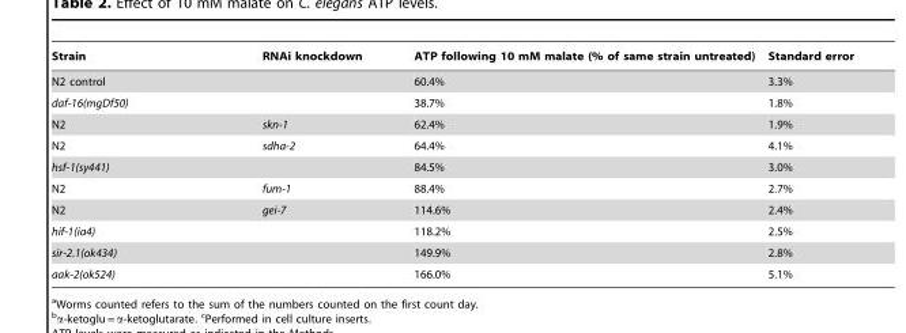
<table><thead><tr><td>Strain</td><td>RNAi knockdown</td><td>ATP following 10 mM malate (% of same strain untreated)</td><td>Standard error</td></tr></thead><tbody><tr><td colspan="2">N2 control</td><td>60.4%</td><td>3.3%</td></tr><tr><td colspan="2">daf-16(mgDf50)</td><td>38.7%</td><td>1.8%</td></tr><tr><td>N2</td><td>skn-1</td><td>62.4%</td><td>1.9%</td></tr><tr><td>N2</td><td>sdha-2</td><td>64.4%</td><td>4.1%</td></tr><tr><td colspan="2">hsf-1(sy441)</td><td>84.5%</td><td>3.0%</td></tr><tr><td>N2</td><td>fum-1</td><td>88.4%</td><td>2.7%</td></tr><tr><td>N2</td><td>gei-7</td><td>114.6%</td><td>2.4%</td></tr><tr><td colspan="2">hif-1(ia4)</td><td>118.2%</td><td>2.5%</td></tr><tr><td colspan="2">sir-2.1(ok434)</td><td>149.9%</td><td>2.8%</td></tr><tr><td colspan="2">aak-2(ok524)</td><td>166.0%</td><td>5.1%</td></tr></tbody></table>